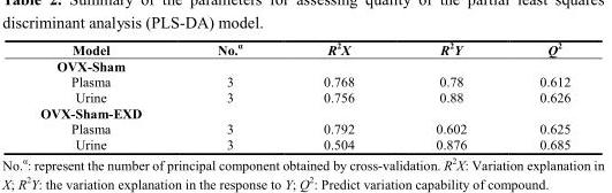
<table><thead><tr><td>Model</td><td>No.α</td><td>R<sup>2</sup>X</td><td>R<sup>2</sup>Y</td><td>Q<sup>2</sup></td></tr></thead><tbody><tr><td colspan="5">OVX-Sham</td></tr><tr><td>Plasma</td><td>3</td><td>0.768</td><td>0.78</td><td>0.612</td></tr><tr><td>Urine</td><td>3</td><td>0.756</td><td>0.88</td><td>0.626</td></tr><tr><td colspan="5">OVX-Sham-EXD</td></tr><tr><td>Plasma</td><td>3</td><td>0.792</td><td>0.602</td><td>0.625</td></tr><tr><td>Urine</td><td>3</td><td>0.504</td><td>0.876</td><td>0.685</td></tr></tbody></table>